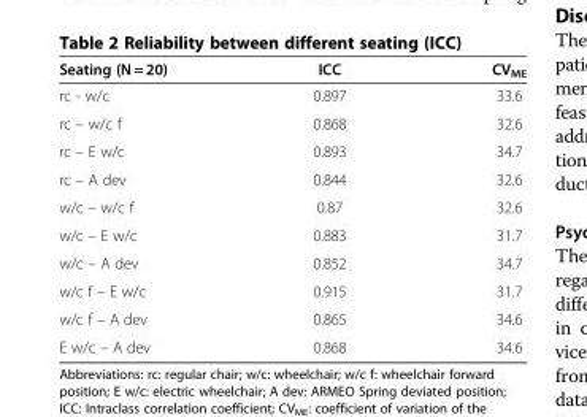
<table><thead><tr><td>Seating (N = 20)</td><td>ICC</td><td>CV<sub>ME</sub></td></tr></thead><tbody><tr><td>rc - w/c</td><td>0.897</td><td>33.6</td></tr><tr><td>rc – w/c f</td><td>0.868</td><td>32.6</td></tr><tr><td>rc – E w/c</td><td>0.893</td><td>34.7</td></tr><tr><td>rc – A dev</td><td>0.844</td><td>32.6</td></tr><tr><td>w/c – w/c f</td><td>0.87</td><td>32.6</td></tr><tr><td>w/c – E w/c</td><td>0.883</td><td>31.7</td></tr><tr><td>w/c – A dev</td><td>0.852</td><td>34.7</td></tr><tr><td>w/c f – E w/c</td><td>0.915</td><td>31.7</td></tr><tr><td>w/c f – A dev</td><td>0.865</td><td>34.6</td></tr><tr><td>E w/c – A dev</td><td>0.868</td><td>34.6</td></tr></tbody></table>